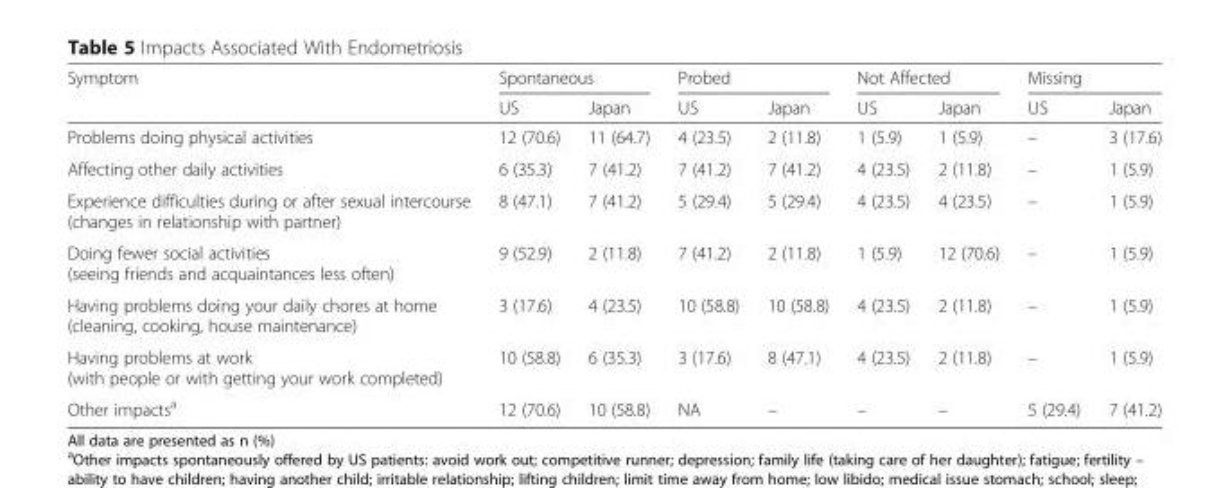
<table><thead><tr><td rowspan="2">Symptom</td><td colspan="2">Spontaneous</td><td colspan="2">Probed</td><td colspan="2">Not Affected</td><td colspan="2">Missing</td></tr><tr><td>US</td><td>Japan</td><td>US</td><td>Japan</td><td>US</td><td>Japan</td><td>US</td><td>Japan</td></tr></thead><tbody><tr><td>Problems doing physical activities</td><td>12 (70.6)</td><td>11 (64.7)</td><td>4 (23.5)</td><td>2 (11.8)</td><td>1 (5.9)</td><td>1 (5.9)</td><td>–</td><td>3 (17.6)</td></tr><tr><td>Affecting other daily activities</td><td>6 (35.3)</td><td>7 (41.2)</td><td>7 (41.2)</td><td>7 (41.2)</td><td>4 (23.5)</td><td>2 (11.8)</td><td>–</td><td>1 (5.9)</td></tr><tr><td>Experience difficulties during or after sexual intercourse (changes in relationship with partner)</td><td>8 (47.1)</td><td>7 (41.2)</td><td>5 (29.4)</td><td>5 (29.4)</td><td>4 (23.5)</td><td>4 (23.5)</td><td>–</td><td>1 (5.9)</td></tr><tr><td>Doing fewer social activities (seeing friends and acquaintances less often)</td><td>9 (52.9)</td><td>2 (11.8)</td><td>7 (41.2)</td><td>2 (11.8)</td><td>1 (5.9)</td><td>12 (70.6)</td><td>–</td><td>1 (5.9)</td></tr><tr><td>Having problems doing your daily chores at home (cleaning, cooking, house maintenance)</td><td>3 (17.6)</td><td>4 (23.5)</td><td>10 (58.8)</td><td>10 (58.8)</td><td>4 (23.5)</td><td>2 (11.8)</td><td>–</td><td>1 (5.9)</td></tr><tr><td>Having problems at work (with people or with getting your work completed)</td><td>10 (58.8)</td><td>6 (35.3)</td><td>3 (17.6)</td><td>8 (47.1)</td><td>4 (23.5)</td><td>2 (11.8)</td><td>–</td><td>1 (5.9)</td></tr><tr><td>Other impacts<sup>a</sup></td><td>12 (70.6)</td><td>10 (58.8)</td><td>NA</td><td>–</td><td>–</td><td>–</td><td>5 (29.4)</td><td>7 (41.2)</td></tr></tbody></table>